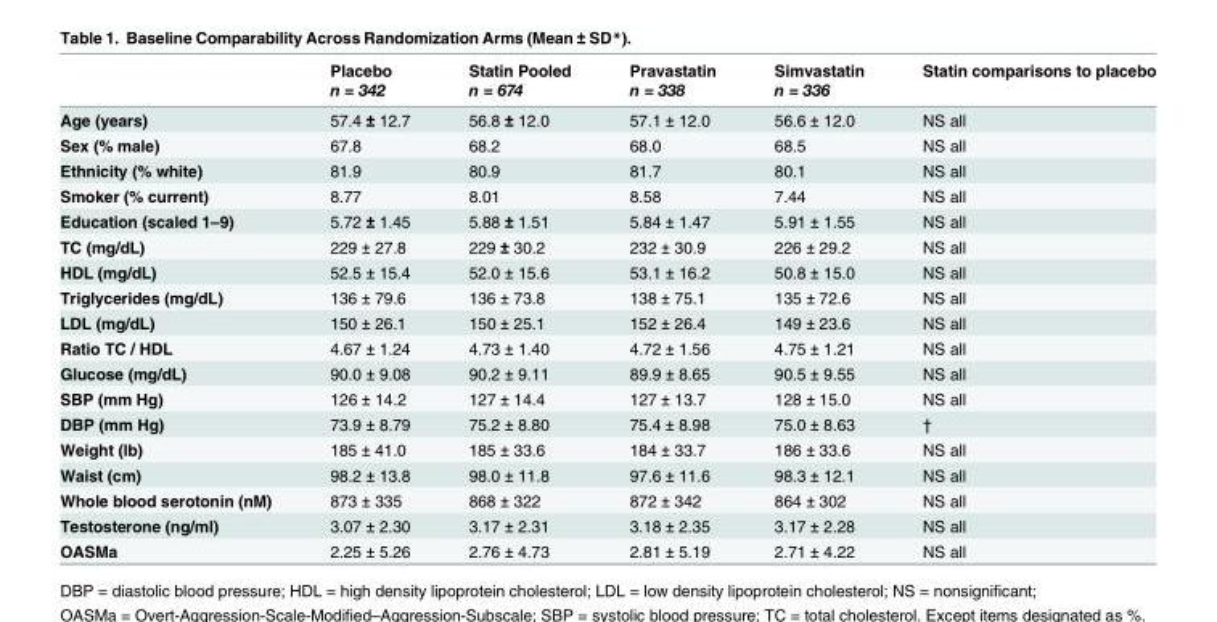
<table><thead><tr><td rowspan="2"></td><td rowspan="2">Placebo n = 342</td><td rowspan="2">Statin Pooled n = 674</td><td rowspan="2">Pravastatin n = 338</td><td rowspan="2">Simvastatin n = 336</td><td rowspan="2">Statin comparisons to placebo</td></tr><tr></tr></thead><tbody><tr><td>Age (years)</td><td>57.4 ± 12.7</td><td>56.8 ± 12.0</td><td>57.1 ± 12.0</td><td>56.6 ± 12.0</td><td>NS all</td></tr><tr><td>Sex (% male)</td><td>67.8</td><td>68.2</td><td>68.0</td><td>68.5</td><td>NS all</td></tr><tr><td>Ethnicity (% white)</td><td>81.9</td><td>80.9</td><td>81.7</td><td>80.1</td><td>NS all</td></tr><tr><td>Smoker (% current)</td><td>8.77</td><td>8.01</td><td>8.58</td><td>7.44</td><td>NS all</td></tr><tr><td>Education (scaled 1–9)</td><td>5.72 ± 1.45</td><td>5.88 ± 1.51</td><td>5.84 ± 1.47</td><td>5.91 ± 1.55</td><td>NS all</td></tr><tr><td>TC (mg/dL)</td><td>229 ± 27.8</td><td>229 ± 30.2</td><td>232 ± 30.9</td><td>226 ± 29.2</td><td>NS all</td></tr><tr><td>HDL (mg/dL)</td><td>52.5 ± 15.4</td><td>52.0 ± 15.6</td><td>53.1 ± 16.2</td><td>50.8 ± 15.0</td><td>NS all</td></tr><tr><td>Triglycerides (mg/dL)</td><td>136 ± 79.6</td><td>136 ± 73.8</td><td>138 ± 75.1</td><td>135 ± 72.6</td><td>NS all</td></tr><tr><td>LDL (mg/dL)</td><td>150 ± 26.1</td><td>150 ± 25.1</td><td>152 ± 26.4</td><td>149 ± 23.6</td><td>NS all</td></tr><tr><td>Ratio TC / HDL</td><td>4.67 ± 1.24</td><td>4.73 ± 1.40</td><td>4.72 ± 1.56</td><td>4.75 ± 1.21</td><td>NS all</td></tr><tr><td>Glucose (mg/dL)</td><td>90.0 ± 9.08</td><td>90.2 ± 9.11</td><td>89.9 ± 8.65</td><td>90.5 ± 9.55</td><td>NS all</td></tr><tr><td>SBP (mm Hg)</td><td>126 ± 14.2</td><td>127 ± 14.4</td><td>127 ± 13.7</td><td>128 ± 15.0</td><td>NS all</td></tr><tr><td>DBP (mm Hg)</td><td>73.9 ± 8.79</td><td>75.2 ± 8.80</td><td>75.4 ± 8.98</td><td>75.0 ± 8.63</td><td>†</td></tr><tr><td>Weight (lb)</td><td>185 ± 41.0</td><td>185 ± 33.6</td><td>184 ± 33.7</td><td>186 ± 33.6</td><td>NS all</td></tr><tr><td>Waist (cm)</td><td>98.2 ± 13.8</td><td>98.0 ± 11.8</td><td>97.6 ± 11.6</td><td>98.3 ± 12.1</td><td>NS all</td></tr><tr><td>Whole blood serotonin (nM)</td><td>873 ± 335</td><td>868 ± 322</td><td>872 ± 342</td><td>864 ± 302</td><td>NS all</td></tr><tr><td>Testosterone (ng/ml)</td><td>3.07 ± 2.30</td><td>3.17 ± 2.31</td><td>3.18 ± 2.35</td><td>3.17 ± 2.28</td><td>NS all</td></tr><tr><td>OASMa</td><td>2.25 ± 5.26</td><td>2.76 ± 4.73</td><td>2.81 ± 5.19</td><td>2.71 ± 4.22</td><td>NS all</td></tr></tbody></table>